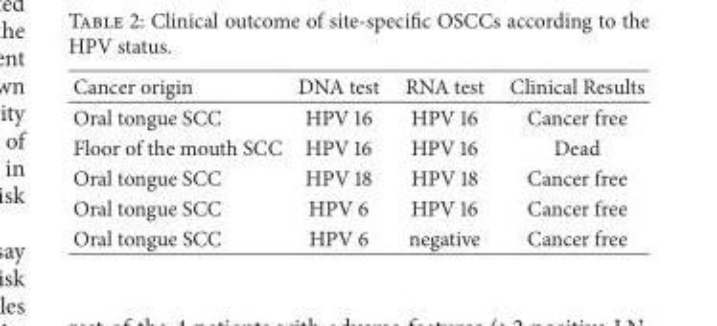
<table><thead><tr><td>Cancer origin</td><td>DNA test</td><td>RNA test</td><td>Clinical Results</td></tr></thead><tbody><tr><td>Oral tongue SCC</td><td>HPV 16</td><td>HPV 16</td><td>Cancer free</td></tr><tr><td>Floor of the mouth SCC</td><td>HPV 16</td><td>HPV 16</td><td>Dead</td></tr><tr><td>Oral tongue SCC</td><td>HPV 18</td><td>HPV 18</td><td>Cancer free</td></tr><tr><td>Oral tongue SCC</td><td>HPV 6</td><td>HPV 16</td><td>Cancer free</td></tr><tr><td>Oral tongue SCC</td><td>HPV 6</td><td>negative</td><td>Cancer free</td></tr></tbody></table>